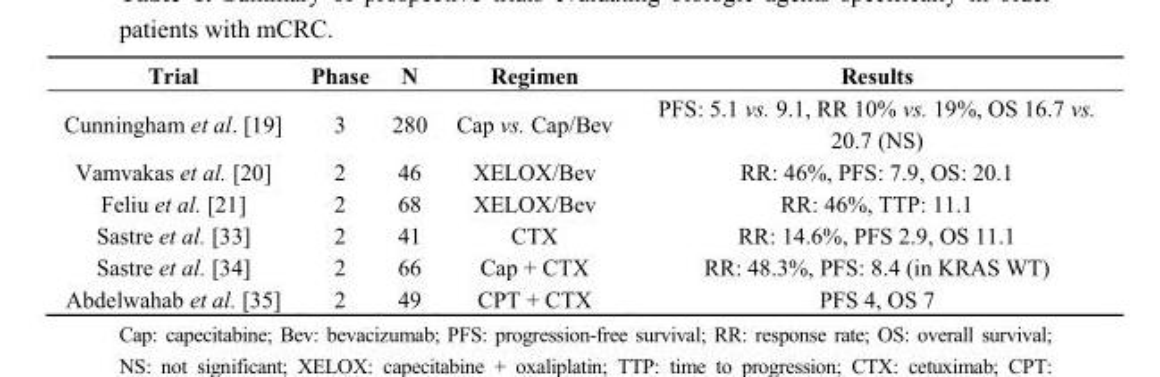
<table><thead><tr><td>Trial</td><td>Phase</td><td>N</td><td>Regimen</td><td>Results</td></tr></thead><tbody><tr><td>Cunningham et al. [19]</td><td>3</td><td>280</td><td>Cap vs. Cap/Bev</td><td>PFS: 5.1 vs. 9.1, RR 10% vs. 19%, OS 16.7 vs. 20.7 (NS)</td></tr><tr><td>Vamvakas et al. [20]</td><td>2</td><td>46</td><td>XELOX/Bev</td><td>RR: 46%, PFS: 7.9, OS: 20.1</td></tr><tr><td>Feliu et al. [21]</td><td>2</td><td>68</td><td>XELOX/Bev</td><td>RR: 46%, TTP: 11.1</td></tr><tr><td>Sastre et al. [33]</td><td>2</td><td>41</td><td>CTX</td><td>RR: 14.6%, PFS 2.9, OS 11.1</td></tr><tr><td>Sastre et al. [34]</td><td>2</td><td>66</td><td>Cap + CTX</td><td>RR: 48.3%, PFS: 8.4 (in KRAS WT)</td></tr><tr><td>Abdelwahab et al. [35]</td><td>2</td><td>49</td><td>CPT + CTX</td><td>PFS 4, OS 7</td></tr></tbody></table>